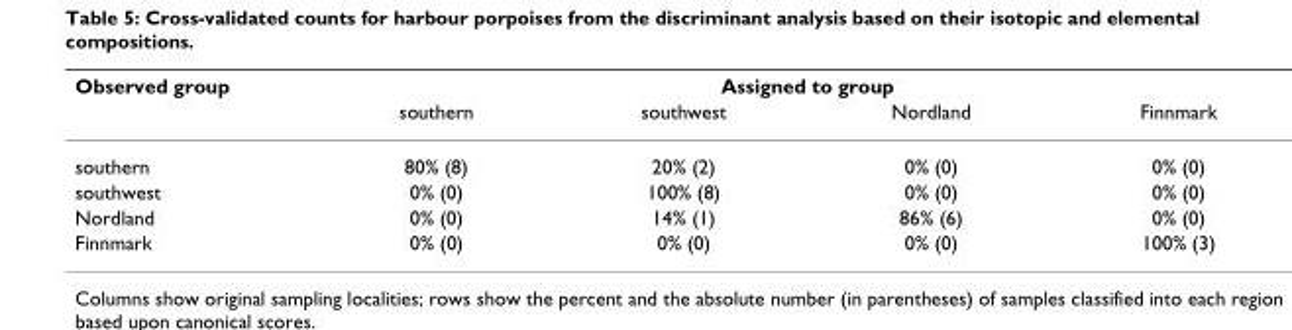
<table><thead><tr><td rowspan="2">Observed group</td><td colspan="4">Assigned to group</td></tr><tr><td>southern</td><td>southwest</td><td>Nordland</td><td>Finnmark</td></tr></thead><tbody><tr><td>southern</td><td>80% (8)</td><td>20% (2)</td><td>0% (0)</td><td>0% (0)</td></tr><tr><td>southwest</td><td>0% (0)</td><td>100% (8)</td><td>0% (0)</td><td>0% (0)</td></tr><tr><td>Nordland</td><td>0% (0)</td><td>14% (1)</td><td>86% (6)</td><td>0% (0)</td></tr><tr><td>Finnmark</td><td>0% (0)</td><td>0% (0)</td><td>0% (0)</td><td>100% (3)</td></tr></tbody></table>